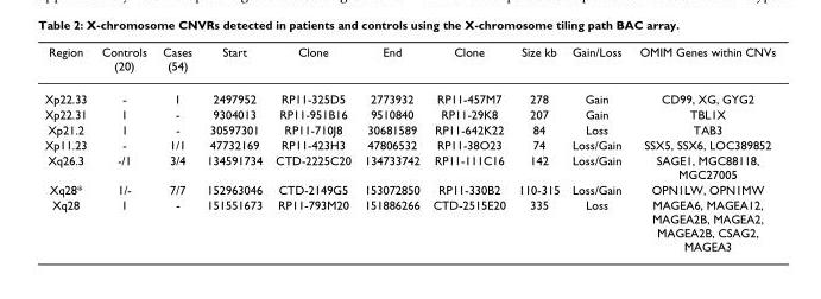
<table><thead><tr><td>Region</td><td>Controls (20)</td><td>Cases (54)</td><td>Start</td><td>Clone</td><td>End</td><td>Clone</td><td>Size kb</td><td>Gain/Loss</td><td>OMIM Genes within CNVs</td></tr></thead><tbody><tr><td>Xp22.33</td><td>-</td><td>1</td><td>2497952</td><td>RP11-325D5</td><td>2773932</td><td>RP11-457M7</td><td>278</td><td>Gain</td><td>CD99, XG, GYG2</td></tr><tr><td>Xp22.31</td><td>1</td><td>-</td><td>9304013</td><td>RP11-951B16</td><td>9510840</td><td>RP11-29K8</td><td>207</td><td>Gain</td><td>TBL1X</td></tr><tr><td>Xp21.2</td><td>1</td><td>-</td><td>30597301</td><td>RP11-710J8</td><td>30681589</td><td>RP11-642K22</td><td>84</td><td>Loss</td><td>TAB3</td></tr><tr><td>Xp11.23</td><td>-</td><td>1/1</td><td>47732169</td><td>RP11-423H3</td><td>47806532</td><td>RP11-38O23</td><td>74</td><td>Loss/Gain</td><td>SSX5, SSX6, LOC389852</td></tr><tr><td>Xq26.3</td><td>-/1</td><td>3/4</td><td>134591734</td><td>CTD-2225C20</td><td>134733742</td><td>RP11-111C16</td><td>142</td><td>Loss/Gain</td><td>SAGE1, MGC88118, MGC27005</td></tr><tr><td>Xq28*</td><td>1/-</td><td>7/7</td><td>152963046</td><td>CTD-2149G5</td><td>153072850</td><td>RP11-330B2</td><td>110-315</td><td>Loss/Gain</td><td>OPN1LW, OPN1MW</td></tr><tr><td>Xq28</td><td>1</td><td>-</td><td>151551673</td><td>RP11-793M20</td><td>151886266</td><td>CTD-2515E20</td><td>335</td><td>Loss</td><td>MAGEA6, MAGEA12, MAGEA2B, MAGEA2, MAGEA2B, CSAG2, MAGEA3</td></tr></tbody></table>